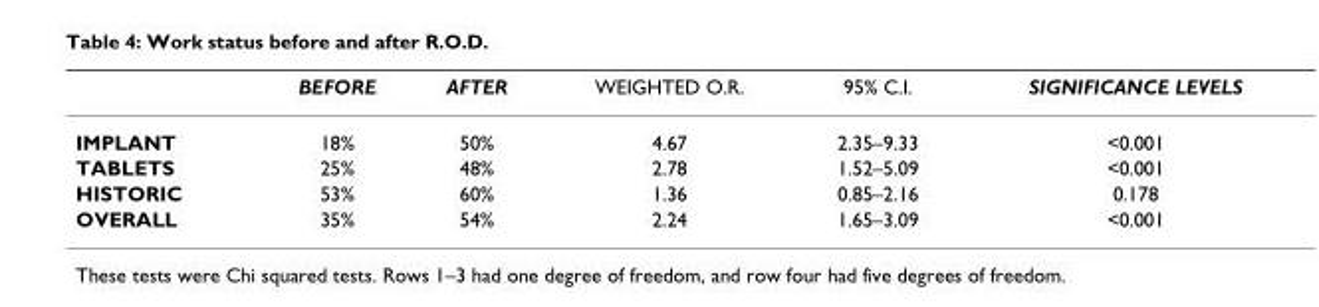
<table><thead><tr><td></td><td>BEFORE</td><td>AFTER</td><td>WEIGHTED O.R.</td><td>95% C.I.</td><td>SIGNIFICANCE LEVELS</td></tr></thead><tbody><tr><td>IMPLANT</td><td>18%</td><td>50%</td><td>4.67</td><td>2.35–9.33</td><td>&lt;0.001</td></tr><tr><td>TABLETS</td><td>25%</td><td>48%</td><td>2.78</td><td>1.52–5.09</td><td>&lt;0.001</td></tr><tr><td>HISTORIC</td><td>53%</td><td>60%</td><td>1.36</td><td>0.85–2.16</td><td>0.178</td></tr><tr><td>OVERALL</td><td>35%</td><td>54%</td><td>2.24</td><td>1.65–3.09</td><td>&lt;0.001</td></tr></tbody></table>